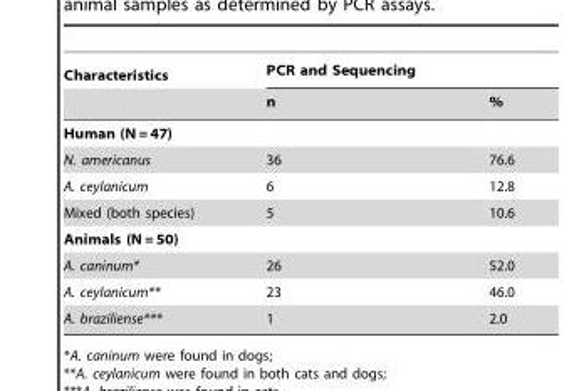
<table><thead><tr><td rowspan="2">Characteristics</td><td colspan="2">PCR and Sequencing</td></tr><tr><td>n</td><td>%</td></tr></thead><tbody><tr><td colspan="3">Human (N = 47)</td></tr><tr><td>N. americanus</td><td>36</td><td>76.6</td></tr><tr><td>A. ceylanicum</td><td>6</td><td>12.8</td></tr><tr><td>Mixed (both species)</td><td>5</td><td>10.6</td></tr><tr><td colspan="3">Animals (N = 50)</td></tr><tr><td>A. caninum*</td><td>26</td><td>52.0</td></tr><tr><td>A. ceylanicum**</td><td>23</td><td>46.0</td></tr><tr><td>A. braziliense***</td><td>1</td><td>2.0</td></tr></tbody></table>